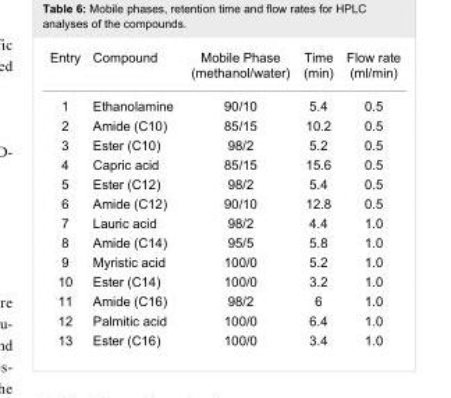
<table><tbody><tr><td>Entry</td><td>Compound</td><td>Mobile Phase (methanol/water)</td><td>Time (min)</td><td>Flow rate (ml/min)</td></tr><tr><td>1</td><td>Ethanolamine</td><td>90/10</td><td>5.4</td><td>0.5</td></tr><tr><td>2</td><td>Amide (C10)</td><td>85/15</td><td>10.2</td><td>0.5</td></tr><tr><td>3</td><td>Ester (C10)</td><td>98/2</td><td>5.2</td><td>0.5</td></tr><tr><td>4</td><td>Capric acid</td><td>85/15</td><td>15.6</td><td>0.5</td></tr><tr><td>5</td><td>Ester (C12)</td><td>98/2</td><td>5.4</td><td>0.5</td></tr><tr><td>6</td><td>Amide (C12)</td><td>90/10</td><td>12.8</td><td>0.5</td></tr><tr><td>7</td><td>Lauric acid</td><td>98/2</td><td>4.4</td><td>1.0</td></tr><tr><td>8</td><td>Amide (C14)</td><td>95/5</td><td>5.8</td><td>1.0</td></tr><tr><td>9</td><td>Myristic acid</td><td>100/0</td><td>5.2</td><td>1.0</td></tr><tr><td>10</td><td>Ester (C14)</td><td>100/0</td><td>3.2</td><td>1.0</td></tr><tr><td>11</td><td>Amide (C16)</td><td>98/2</td><td>6</td><td>1.0</td></tr><tr><td>12</td><td>Palmitic acid</td><td>100/0</td><td>6.4</td><td>1.0</td></tr><tr><td>13</td><td>Ester (C16)</td><td>100/0</td><td>3.4</td><td>1.0</td></tr></tbody></table>